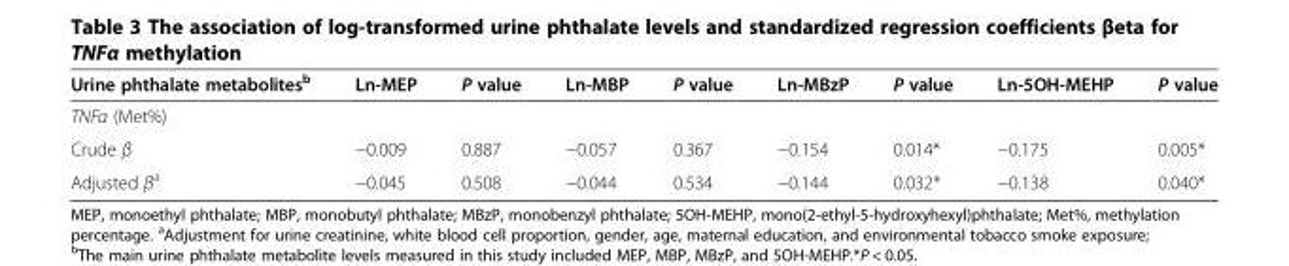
<table><thead><tr><td>Urine phthalate metabolites<sup>b</sup></td><td>Ln-MEP</td><td>P value</td><td>Ln-MBP</td><td>P value</td><td>Ln-MBzP</td><td>P value</td><td>Ln-5OH-MEHP</td><td>P value</td></tr></thead><tbody><tr><td colspan="9">TNFα (Met%)</td></tr><tr><td>Crude β</td><td>−0.009</td><td>0.887</td><td>−0.057</td><td>0.367</td><td>−0.154</td><td>0.014*</td><td>−0.175</td><td>0.005*</td></tr><tr><td>Adjusted β<sup>a</sup></td><td>−0.045</td><td>0.508</td><td>−0.044</td><td>0.534</td><td>−0.144</td><td>0.032*</td><td>−0.138</td><td>0.040*</td></tr></tbody></table>